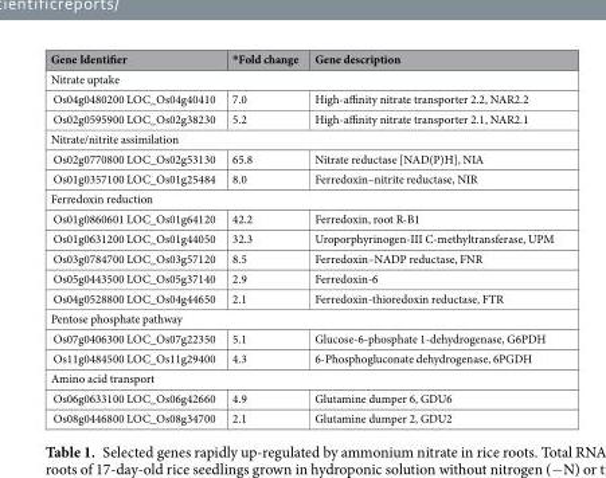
<table><thead><tr><td>Gene Identifier</td><td>*Fold change</td><td>Gene description</td></tr></thead><tbody><tr><td colspan="3">Nitrate uptake</td></tr><tr><td>Os04g0480200 LOC_Os04g40410</td><td>7.0</td><td>High-affinity nitrate transporter 2.2, NAR2.2</td></tr><tr><td>Os02g0595900 LOC_Os02g38230</td><td>5.2</td><td>High-affinity nitrate transporter 2.1, NAR2.1</td></tr><tr><td colspan="3">Nitrate/nitrite assimilation</td></tr><tr><td>Os02g0770800 LOC_Os02g53130</td><td>65.8</td><td>Nitrate reductase [NAD(P)H], NIA</td></tr><tr><td>Os01g0357100 LOC_Os01g25484</td><td>8.0</td><td>Ferredoxin–nitrite reductase, NIR</td></tr><tr><td colspan="3">Ferredoxin reduction</td></tr><tr><td>Os01g0860601 LOC_Os01g64120</td><td>42.2</td><td>Ferredoxin, root R-B1</td></tr><tr><td>Os01g0631200 LOC_Os01g44050</td><td>32.3</td><td>Uroporphyrinogen-III C-methyltransferase, UPM</td></tr><tr><td>Os03g0784700 LOC_Os03g57120</td><td>8.5</td><td>Ferredoxin–NADP reductase, FNR</td></tr><tr><td>Os05g0443500 LOC_Os05g37140</td><td>2.9</td><td>Ferredoxin-6</td></tr><tr><td>Os04g0528800 LOC_Os04g44650</td><td>2.1</td><td>Ferredoxin-thioredoxin reductase, FTR</td></tr><tr><td colspan="3">Pentose phosphate pathway</td></tr><tr><td>Os07g0406300 LOC_Os07g22350</td><td>5.1</td><td>Glucose-6-phosphate 1-dehydrogenase, G6PDH</td></tr><tr><td>Os11g0484500 LOC_Os11g29400</td><td>4.3</td><td>6-Phosphogluconate dehydrogenase, 6PGDH</td></tr><tr><td colspan="3">Amino acid transport</td></tr><tr><td>Os06g0633100 LOC_Os06g42660</td><td>4.9</td><td>Glutamine dumper 6, GDU6</td></tr><tr><td>Os08g0446800 LOC_Os08g34700</td><td>2.1</td><td>Glutamine dumper 2, GDU2</td></tr></tbody></table>